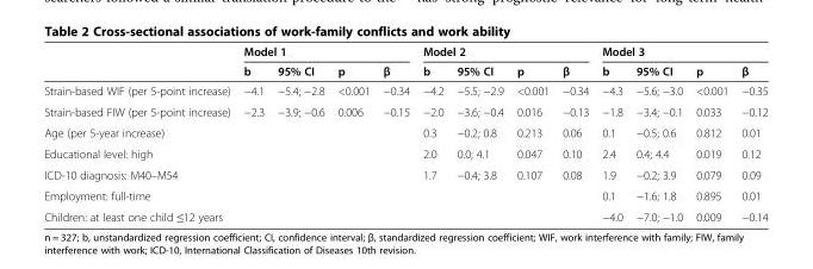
<table><thead><tr><td rowspan="2"></td><td colspan="4">Model 1</td><td colspan="4">Model 2</td><td colspan="4">Model 3</td></tr><tr><td>b</td><td>95% CI</td><td>p</td><td>β</td><td>b</td><td>95% CI</td><td>p</td><td>β</td><td>b</td><td>95% CI</td><td>p</td><td>β</td></tr></thead><tbody><tr><td>Strain-based WIF (per 5-point increase)</td><td>−4.1</td><td>−5.4; −2.8</td><td>&lt;0.001</td><td>−0.34</td><td>−4.2</td><td>−5.5; −2.9</td><td>&lt;0.001</td><td>−0.34</td><td>−4.3</td><td>−5.6; −3.0</td><td>&lt;0.001</td><td>−0.35</td></tr><tr><td>Strain-based FIW (per 5-point increase)</td><td>−2.3</td><td>−3.9; −0.6</td><td>0.006</td><td>−0.15</td><td>−2.0</td><td>−3.6; −0.4</td><td>0.016</td><td>−0.13</td><td>−1.8</td><td>−3.4; −0.1</td><td>0.033</td><td>−0.12</td></tr><tr><td>Age (per 5-year increase)</td><td></td><td></td><td></td><td></td><td>0.3</td><td>−0.2; 0.8</td><td>0.213</td><td>0.06</td><td>0.1</td><td>−0.5; 0.6</td><td>0.812</td><td>0.01</td></tr><tr><td>Educational level: high</td><td></td><td></td><td></td><td></td><td>2.0</td><td>0.0; 4.1</td><td>0.047</td><td>0.10</td><td>2.4</td><td>0.4; 4.4</td><td>0.019</td><td>0.12</td></tr><tr><td>ICD-10 diagnosis: M40–M54</td><td></td><td></td><td></td><td></td><td>1.7</td><td>−0.4; 3.8</td><td>0.107</td><td>0.08</td><td>1.9</td><td>−0.2; 3.9</td><td>0.079</td><td>0.09</td></tr><tr><td>Employment: full-time</td><td></td><td></td><td></td><td></td><td></td><td></td><td></td><td></td><td>0.1</td><td>−1.6; 1.8</td><td>0.895</td><td>0.01</td></tr><tr><td>Children: at least one child ≤12 years</td><td></td><td></td><td></td><td></td><td></td><td></td><td></td><td></td><td>−4.0</td><td>−7.0; −1.0</td><td>0.009</td><td>−0.14</td></tr></tbody></table>